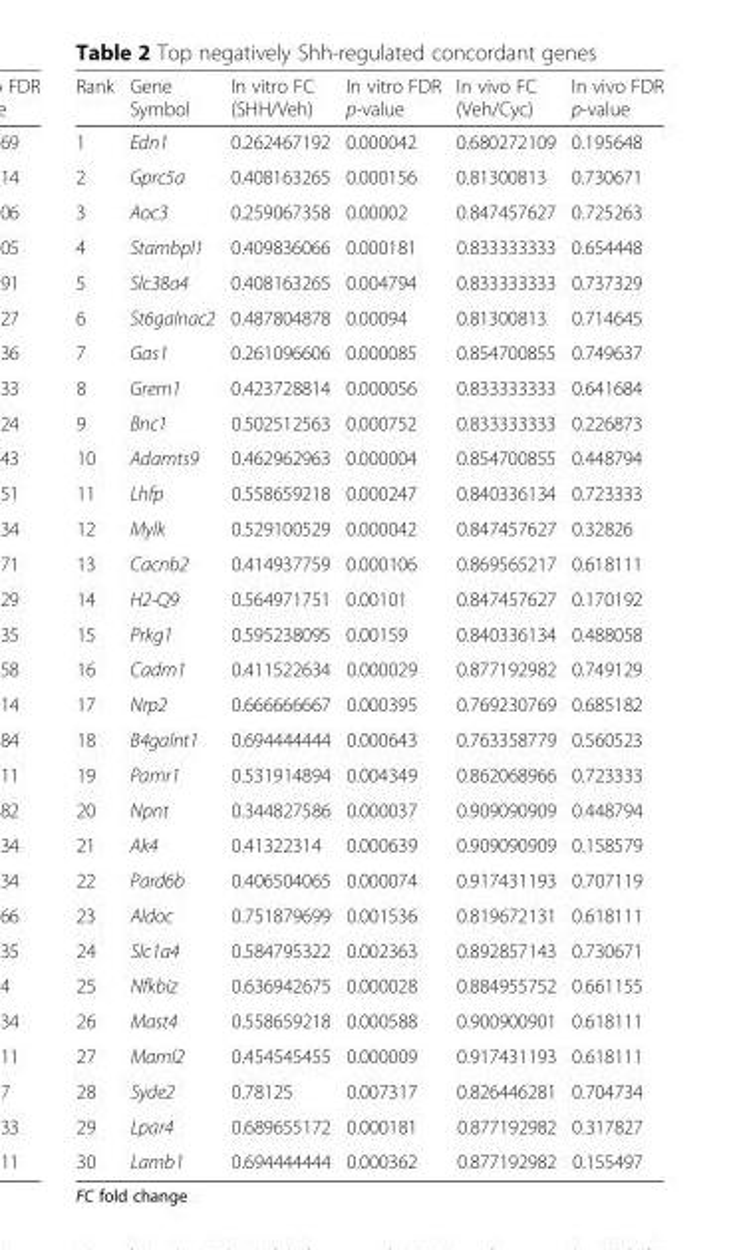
<table><thead><tr><td>Rank</td><td>Gene Symbol</td><td>In vitro FC (SHH/Veh)</td><td>In vitro FDR p-value</td><td>In vivo FC (Veh/Cyc)</td><td>In vivo FDR p-value</td></tr></thead><tbody><tr><td>1</td><td>Edn1</td><td>0.262467192</td><td>0.000042</td><td>0.680272109</td><td>0.195648</td></tr><tr><td>2</td><td>Gprc5a</td><td>0.408163265</td><td>0.000156</td><td>0.81300813</td><td>0.730671</td></tr><tr><td>3</td><td>Aoc3</td><td>0.259067358</td><td>0.00002</td><td>0.847457627</td><td>0.725263</td></tr><tr><td>4</td><td>Stambpl1</td><td>0.409836066</td><td>0.000181</td><td>0.833333333</td><td>0.654448</td></tr><tr><td>5</td><td>Slc38a4</td><td>0.408163265</td><td>0.004794</td><td>0.833333333</td><td>0.737329</td></tr><tr><td>6</td><td>St6galnac2</td><td>0.487804878</td><td>0.00094</td><td>0.81300813</td><td>0.714645</td></tr><tr><td>7</td><td>Gas1</td><td>0.261096606</td><td>0.000085</td><td>0.854700855</td><td>0.749637</td></tr><tr><td>8</td><td>Grem1</td><td>0.423728814</td><td>0.000056</td><td>0.833333333</td><td>0.641684</td></tr><tr><td>9</td><td>Bnc1</td><td>0.502512563</td><td>0.000752</td><td>0.833333333</td><td>0.226873</td></tr><tr><td>10</td><td>Adamts9</td><td>0.462962963</td><td>0.000004</td><td>0.854700855</td><td>0.448794</td></tr><tr><td>11</td><td>Lhfp</td><td>0.558659218</td><td>0.000247</td><td>0.840336134</td><td>0.723333</td></tr><tr><td>12</td><td>Mylk</td><td>0.529100529</td><td>0.000042</td><td>0.847457627</td><td>0.32826</td></tr><tr><td>13</td><td>Cacnb2</td><td>0.414937759</td><td>0.000106</td><td>0.869565217</td><td>0.618111</td></tr><tr><td>14</td><td>H2-Q9</td><td>0.564971751</td><td>0.00101</td><td>0.847457627</td><td>0.170192</td></tr><tr><td>15</td><td>Prkg1</td><td>0.595238095</td><td>0.00159</td><td>0.840336134</td><td>0.488058</td></tr><tr><td>16</td><td>Cadm1</td><td>0.411522634</td><td>0.000029</td><td>0.877192982</td><td>0.749129</td></tr><tr><td>17</td><td>Nrp2</td><td>0.666666667</td><td>0.000395</td><td>0.769230769</td><td>0.685182</td></tr><tr><td>18</td><td>B4galnt1</td><td>0.694444444</td><td>0.000643</td><td>0.763358779</td><td>0.560523</td></tr><tr><td>19</td><td>Pamr1</td><td>0.531914894</td><td>0.004349</td><td>0.862068966</td><td>0.723333</td></tr><tr><td>20</td><td>Npnt</td><td>0.344827586</td><td>0.000037</td><td>0.909090909</td><td>0.448794</td></tr><tr><td>21</td><td>Ak4</td><td>0.41322314</td><td>0.000639</td><td>0.909090909</td><td>0.158579</td></tr><tr><td>22</td><td>Pard6b</td><td>0.406504065</td><td>0.000074</td><td>0.917431193</td><td>0.707119</td></tr><tr><td>23</td><td>Aldoc</td><td>0.751879699</td><td>0.001536</td><td>0.819672131</td><td>0.618111</td></tr><tr><td>24</td><td>Slc1a4</td><td>0.584795322</td><td>0.002363</td><td>0.892857143</td><td>0.730671</td></tr><tr><td>25</td><td>Nfkbiz</td><td>0.636942675</td><td>0.000028</td><td>0.884955752</td><td>0.661155</td></tr><tr><td>26</td><td>Mast4</td><td>0.558659218</td><td>0.000588</td><td>0.900900901</td><td>0.618111</td></tr><tr><td>27</td><td>Maml2</td><td>0.454545455</td><td>0.000009</td><td>0.917431193</td><td>0.618111</td></tr><tr><td>28</td><td>Syde2</td><td>0.78125</td><td>0.007317</td><td>0.826446281</td><td>0.704734</td></tr><tr><td>29</td><td>Lpar4</td><td>0.689655172</td><td>0.000181</td><td>0.877192982</td><td>0.317827</td></tr><tr><td>30</td><td>Lamb1</td><td>0.694444444</td><td>0.000362</td><td>0.877192982</td><td>0.155497</td></tr></tbody></table>